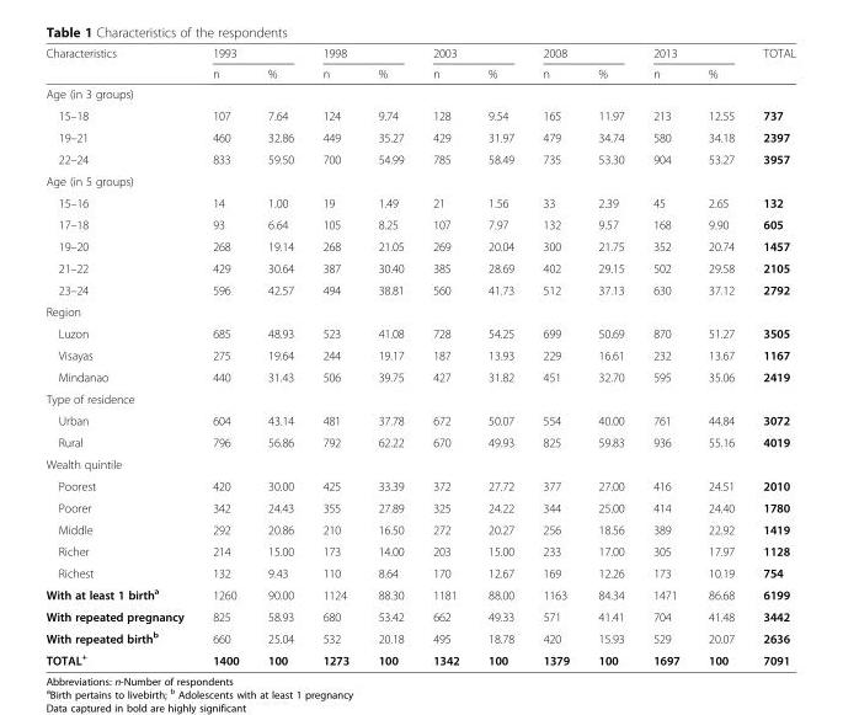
<table><thead><tr><td rowspan="2">Characteristics</td><td colspan="2">1993</td><td colspan="2">1998</td><td colspan="2">2003</td><td colspan="2">2008</td><td colspan="2">2013</td><td rowspan="2">TOTAL</td></tr><tr><td>n</td><td>%</td><td>n</td><td>%</td><td>n</td><td>%</td><td>n</td><td>%</td><td>n</td><td>%</td></tr></thead><tbody><tr><td colspan="12">Age (in 3 groups)</td></tr><tr><td>15–18</td><td>107</td><td>7.64</td><td>124</td><td>9.74</td><td>128</td><td>9.54</td><td>165</td><td>11.97</td><td>213</td><td>12.55</td><td>737</td></tr><tr><td>19–21</td><td>460</td><td>32.86</td><td>449</td><td>35.27</td><td>429</td><td>31.97</td><td>479</td><td>34.74</td><td>580</td><td>34.18</td><td>2397</td></tr><tr><td>22–24</td><td>833</td><td>59.50</td><td>700</td><td>54.99</td><td>785</td><td>58.49</td><td>735</td><td>53.30</td><td>904</td><td>53.27</td><td>3957</td></tr><tr><td colspan="12">Age (in 5 groups)</td></tr><tr><td>15–16</td><td>14</td><td>1.00</td><td>19</td><td>1.49</td><td>21</td><td>1.56</td><td>33</td><td>2.39</td><td>45</td><td>2.65</td><td>132</td></tr><tr><td>17–18</td><td>93</td><td>6.64</td><td>105</td><td>8.25</td><td>107</td><td>7.97</td><td>132</td><td>9.57</td><td>168</td><td>9.90</td><td>605</td></tr><tr><td>19–20</td><td>268</td><td>19.14</td><td>268</td><td>21.05</td><td>269</td><td>20.04</td><td>300</td><td>21.75</td><td>352</td><td>20.74</td><td>1457</td></tr><tr><td>21–22</td><td>429</td><td>30.64</td><td>387</td><td>30.40</td><td>385</td><td>28.69</td><td>402</td><td>29.15</td><td>502</td><td>29.58</td><td>2105</td></tr><tr><td>23–24</td><td>596</td><td>42.57</td><td>494</td><td>38.81</td><td>560</td><td>41.73</td><td>512</td><td>37.13</td><td>630</td><td>37.12</td><td>2792</td></tr><tr><td colspan="12">Region</td></tr><tr><td>Luzon</td><td>685</td><td>48.93</td><td>523</td><td>41.08</td><td>728</td><td>54.25</td><td>699</td><td>50.69</td><td>870</td><td>51.27</td><td>3505</td></tr><tr><td>Visayas</td><td>275</td><td>19.64</td><td>244</td><td>19.17</td><td>187</td><td>13.93</td><td>229</td><td>16.61</td><td>232</td><td>13.67</td><td>1167</td></tr><tr><td>Mindanao</td><td>440</td><td>31.43</td><td>506</td><td>39.75</td><td>427</td><td>31.82</td><td>451</td><td>32.70</td><td>595</td><td>35.06</td><td>2419</td></tr><tr><td colspan="12">Type of residence</td></tr><tr><td>Urban</td><td>604</td><td>43.14</td><td>481</td><td>37.78</td><td>672</td><td>50.07</td><td>554</td><td>40.00</td><td>761</td><td>44.84</td><td>3072</td></tr><tr><td>Rural</td><td>796</td><td>56.86</td><td>792</td><td>62.22</td><td>670</td><td>49.93</td><td>825</td><td>59.83</td><td>936</td><td>55.16</td><td>4019</td></tr><tr><td colspan="12">Wealth quintile</td></tr><tr><td>Poorest</td><td>420</td><td>30.00</td><td>425</td><td>33.39</td><td>372</td><td>27.72</td><td>377</td><td>27.00</td><td>416</td><td>24.51</td><td>2010</td></tr><tr><td>Poorer</td><td>342</td><td>24.43</td><td>355</td><td>27.89</td><td>325</td><td>24.22</td><td>344</td><td>25.00</td><td>414</td><td>24.40</td><td>1780</td></tr><tr><td>Middle</td><td>292</td><td>20.86</td><td>210</td><td>16.50</td><td>272</td><td>20.27</td><td>256</td><td>18.56</td><td>389</td><td>22.92</td><td>1419</td></tr><tr><td>Richer</td><td>214</td><td>15.00</td><td>173</td><td>14.00</td><td>203</td><td>15.00</td><td>233</td><td>17.00</td><td>305</td><td>17.97</td><td>1128</td></tr><tr><td>Richest</td><td>132</td><td>9.43</td><td>110</td><td>8.64</td><td>170</td><td>12.67</td><td>169</td><td>12.26</td><td>173</td><td>10.19</td><td>754</td></tr><tr><td>With at least 1 birth<sup>a</sup></td><td>1260</td><td>90.00</td><td>1124</td><td>88.30</td><td>1181</td><td>88.00</td><td>1163</td><td>84.34</td><td>1471</td><td>86.68</td><td>6199</td></tr><tr><td>With repeated pregnancy</td><td>825</td><td>58.93</td><td>680</td><td>53.42</td><td>662</td><td>49.33</td><td>571</td><td>41.41</td><td>704</td><td>41.48</td><td>3442</td></tr><tr><td>With repeated birth<sup>b</sup></td><td>660</td><td>25.04</td><td>532</td><td>20.18</td><td>495</td><td>18.78</td><td>420</td><td>15.93</td><td>529</td><td>20.07</td><td>2636</td></tr><tr><td>TOTAL<sup>+</sup></td><td>1400</td><td>100</td><td>1273</td><td>100</td><td>1342</td><td>100</td><td>1379</td><td>100</td><td>1697</td><td>100</td><td>7091</td></tr></tbody></table>